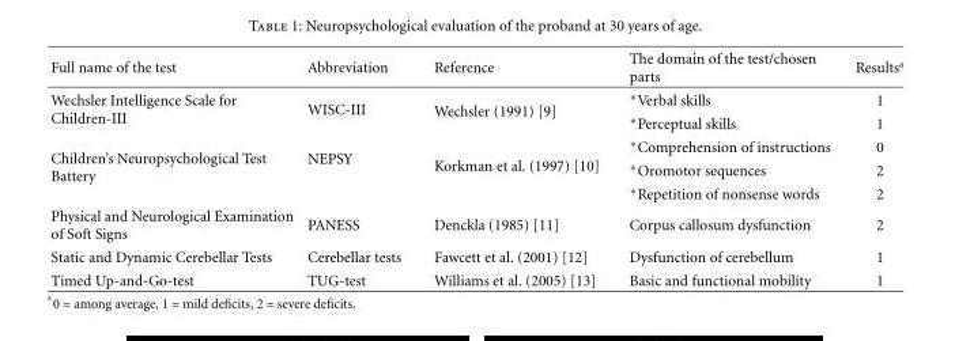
<table><thead><tr><td>Full name of the test</td><td>Abbreviation</td><td>Reference</td><td>The domain of the test/chosen parts</td><td>Results<sup>a</sup></td></tr></thead><tbody><tr><td rowspan="2">Wechsler Intelligence Scale for Children-III</td><td rowspan="2">WISC-III</td><td rowspan="2">Wechsler (1991) [9]</td><td>∗Verbal skills</td><td>1</td></tr><tr><td>∗Perceptual skills</td><td>1</td></tr><tr><td rowspan="3">Children’s Neuropsychological Test Battery</td><td rowspan="3">NEPSY</td><td rowspan="3">Korkman et al. (1997) [10]</td><td>∗Comprehension of instructions</td><td>0</td></tr><tr><td>∗Oromotor sequences</td><td>2</td></tr><tr><td>∗Repetition of nonsense words</td><td>2</td></tr><tr><td>Physical and Neurological Examination of Soft Signs</td><td>PANESS</td><td>Denckla (1985) [11]</td><td>Corpus callosum dysfunction</td><td>2</td></tr><tr><td>Static and Dynamic Cerebellar Tests</td><td>Cerebellar tests</td><td>Fawcett et al. (2001) [12]</td><td>Dysfunction of cerebellum</td><td>1</td></tr><tr><td>Timed Up-and-Go-test</td><td>TUG-test</td><td>Williams et al. (2005) [13]</td><td>Basic and functional mobility</td><td>1</td></tr></tbody></table>